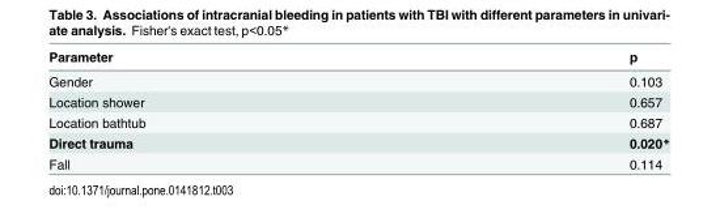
<table><thead><tr><td>Parameter</td><td>p</td></tr></thead><tbody><tr><td>Gender</td><td>0.103</td></tr><tr><td>Location shower</td><td>0.657</td></tr><tr><td>Location bathtub</td><td>0.687</td></tr><tr><td>Direct trauma</td><td>0.020*</td></tr><tr><td>Fall</td><td>0.114</td></tr></tbody></table>